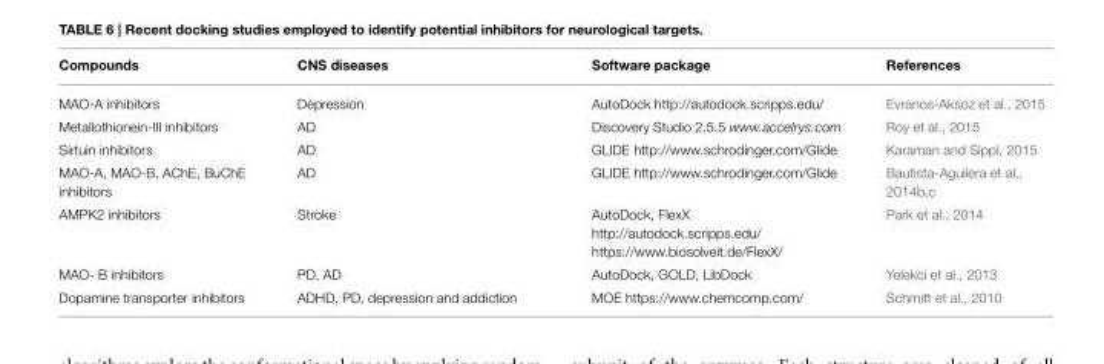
<table><thead><tr><td>Compounds</td><td>CNS diseases</td><td>Software package</td><td>References</td></tr></thead><tbody><tr><td>MAO-A inhibitors</td><td>Depression</td><td>AutoDock http://autodock.scripps.edu/</td><td>Evranos-Aksoz et al., 2015</td></tr><tr><td>Metallothionein-III inhibitors</td><td>AD</td><td>Discovery Studio 2.5.5 www.accelrys.com</td><td>Roy et al., 2015</td></tr><tr><td>Sirtuin inhibitors</td><td>AD</td><td>GLIDE http://www.schrodinger.com/Glide</td><td>Karaman and Sippl, 2015</td></tr><tr><td>MAO-A, MAO-B, AChE, BuChE inhibitors</td><td>AD</td><td>GLIDE http://www.schrodinger.com/Glide</td><td>Bautista-Aguilera et al., 2014b,c</td></tr><tr><td>AMPK2 inhibitors</td><td>Stroke</td><td>AutoDock, FlexX http://autodock.scripps.edu/ https://www.biosolveit.de/FlexX/</td><td>Park et al., 2014</td></tr><tr><td>MAO- B inhibitors</td><td>PD, AD</td><td>AutoDock, GOLD, LibDock</td><td>Yelekci et al., 2013</td></tr><tr><td>Dopamine transporter inhibitors</td><td>ADHD, PD, depression and addiction</td><td>MOE https://www.chemcomp.com/</td><td>Schmitt et al., 2010</td></tr></tbody></table>